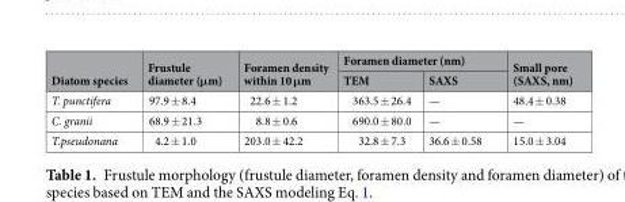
<table><thead><tr><td rowspan="2">Diatom species</td><td rowspan="2">Frustule diameter (μm)</td><td rowspan="2">Foramen density within 10 μm</td><td colspan="2">Foramen diameter (nm)</td><td rowspan="2">Small pore (SAXS, nm)</td></tr><tr><td>TEM</td><td>SAXS</td></tr></thead><tbody><tr><td>T. punctifera</td><td>97.9 ± 8.4</td><td>22.6 ± 1.2</td><td>363.5 ± 26.4</td><td>—</td><td>48.4 ± 0.38</td></tr><tr><td>C. granii</td><td>68.9 ± 21.3</td><td>8.8 ± 0.6</td><td>690.0 ± 80.0</td><td>—</td><td>—</td></tr><tr><td>T.pseudonana</td><td>4.2 ± 1.0</td><td>203.0 ± 42.2</td><td>32.8 ± 7.3</td><td>36.6 ± 0.58</td><td>15.0 ± 3.04</td></tr></tbody></table>